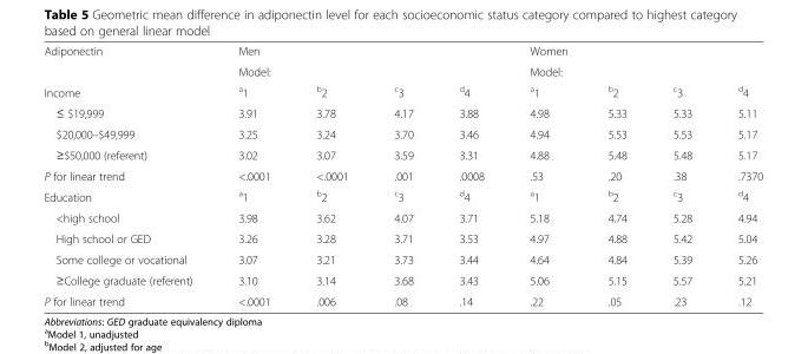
<table><tbody><tr><td rowspan="2">Adiponectin</td><td colspan="4">Men</td><td colspan="4">Women</td></tr><tr><td>Model:</td><td></td><td></td><td></td><td>Model:</td><td></td><td></td><td></td></tr><tr><td>Income</td><td><sup>a</sup>1</td><td><sup>b</sup>2</td><td><sup>c</sup>3</td><td><sup>d</sup>4</td><td><sup>a</sup>1</td><td><sup>b</sup>2</td><td><sup>c</sup>3</td><td><sup>d</sup>4</td></tr><tr><td>≤ $19,999</td><td>3.91</td><td>3.78</td><td>4.17</td><td>3.88</td><td>4.98</td><td>5.33</td><td>5.33</td><td>5.11</td></tr><tr><td>$20,000–$49,999</td><td>3.25</td><td>3.24</td><td>3.70</td><td>3.46</td><td>4.94</td><td>5.53</td><td>5.53</td><td>5.17</td></tr><tr><td>≥$50,000 (referent)</td><td>3.02</td><td>3.07</td><td>3.59</td><td>3.31</td><td>4.88</td><td>5.48</td><td>5.48</td><td>5.17</td></tr><tr><td>P for linear trend</td><td>&lt;.0001</td><td>&lt;.0001</td><td>.001</td><td>.0008</td><td>.53</td><td>.20</td><td>.38</td><td>.7370</td></tr><tr><td>Education</td><td><sup>a</sup>1</td><td><sup>b</sup>2</td><td><sup>c</sup>3</td><td><sup>d</sup>4</td><td><sup>a</sup>1</td><td><sup>b</sup>2</td><td><sup>c</sup>3</td><td><sup>d</sup>4</td></tr><tr><td>&lt;high school</td><td>3.98</td><td>3.62</td><td>4.07</td><td>3.71</td><td>5.18</td><td>4.74</td><td>5.28</td><td>4.94</td></tr><tr><td>High school or GED</td><td>3.26</td><td>3.28</td><td>3.71</td><td>3.53</td><td>4.97</td><td>4.88</td><td>5.42</td><td>5.04</td></tr><tr><td>Some college or vocational</td><td>3.07</td><td>3.21</td><td>3.73</td><td>3.44</td><td>4.64</td><td>4.84</td><td>5.39</td><td>5.26</td></tr><tr><td>≥College graduate (referent)</td><td>3.10</td><td>3.14</td><td>3.68</td><td>3.43</td><td>5.06</td><td>5.15</td><td>5.57</td><td>5.21</td></tr><tr><td>P for linear trend</td><td>&lt;.0001</td><td>.006</td><td>.08</td><td>.14</td><td>.22</td><td>.05</td><td>.23</td><td>.12</td></tr></tbody></table>